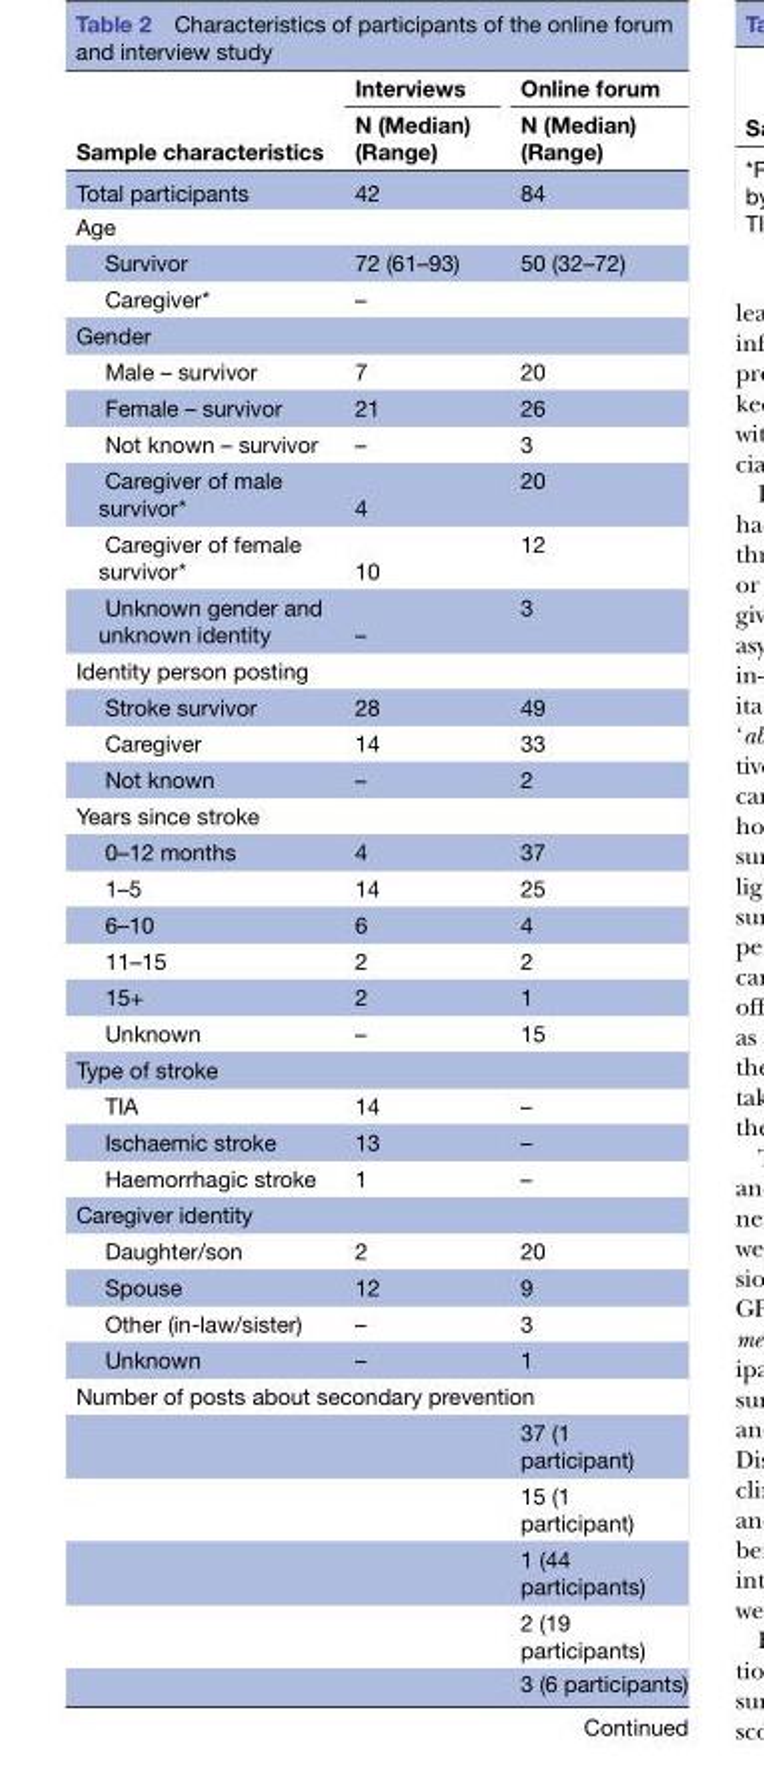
<table><thead><tr><td rowspan="2">Sample characteristics</td><td rowspan="2">Interviews N (Median) (Range)</td><td rowspan="2">Online forum N (Median) (Range)</td></tr><tr></tr></thead><tbody><tr><td>Total participants</td><td>42</td><td>84</td></tr><tr><td colspan="3">Age</td></tr><tr><td>Survivor</td><td>72 (61–93)</td><td>50 (32–72)</td></tr><tr><td>Caregiver*</td><td>–</td><td></td></tr><tr><td colspan="3">Gender</td></tr><tr><td>Male – survivor</td><td>7</td><td>20</td></tr><tr><td>Female – survivor</td><td>21</td><td>26</td></tr><tr><td>Not known – survivor</td><td>–</td><td>3</td></tr><tr><td>Caregiver of male survivor*</td><td>4</td><td>20</td></tr><tr><td>Caregiver of female survivor*</td><td>10</td><td>12</td></tr><tr><td>Unknown gender and unknown identity</td><td>–</td><td>3</td></tr><tr><td colspan="3">Identity person posting</td></tr><tr><td>Stroke survivor</td><td>28</td><td>49</td></tr><tr><td>Caregiver</td><td>14</td><td>33</td></tr><tr><td>Not known</td><td>–</td><td>2</td></tr><tr><td colspan="3">Years since stroke</td></tr><tr><td>0–12 months</td><td>4</td><td>37</td></tr><tr><td>1–5</td><td>14</td><td>25</td></tr><tr><td>6–10</td><td>6</td><td>4</td></tr><tr><td>11–15</td><td>2</td><td>2</td></tr><tr><td>15+</td><td>2</td><td>1</td></tr><tr><td>Unknown</td><td>–</td><td>15</td></tr><tr><td colspan="3">Type of stroke</td></tr><tr><td>TIA</td><td>14</td><td>–</td></tr><tr><td>Ischaemic stroke</td><td>13</td><td>–</td></tr><tr><td>Haemorrhagic stroke</td><td>1</td><td>–</td></tr><tr><td colspan="3">Caregiver identity</td></tr><tr><td>Daughter/son</td><td>2</td><td>20</td></tr><tr><td>Spouse</td><td>12</td><td>9</td></tr><tr><td>Other (in-law/sister)</td><td>–</td><td>3</td></tr><tr><td>Unknown</td><td>–</td><td>1</td></tr><tr><td colspan="3">Number of posts about secondary prevention</td></tr><tr><td></td><td></td><td>37 (1 participant)</td></tr><tr><td></td><td></td><td>15 (1 participant)</td></tr><tr><td></td><td></td><td>1 (44 participants)</td></tr><tr><td></td><td></td><td>2 (19 participants)</td></tr><tr><td></td><td></td><td>3 (6 participants)</td></tr></tbody></table>